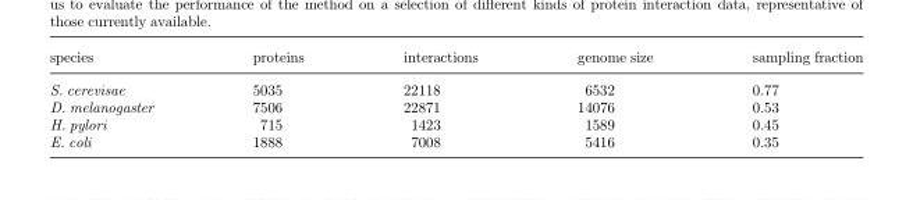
<table><thead><tr><td>species</td><td>proteins</td><td>interactions</td><td>genome size</td><td>sampling fraction</td></tr></thead><tbody><tr><td>S. cerevisae</td><td>5035</td><td>22118</td><td>6532</td><td>0.77</td></tr><tr><td>D. melanogaster</td><td>7506</td><td>22871</td><td>14076</td><td>0.53</td></tr><tr><td>H. pylori</td><td>715</td><td>1423</td><td>1589</td><td>0.45</td></tr><tr><td>E. coli</td><td>1888</td><td>7008</td><td>5416</td><td>0.35</td></tr></tbody></table>